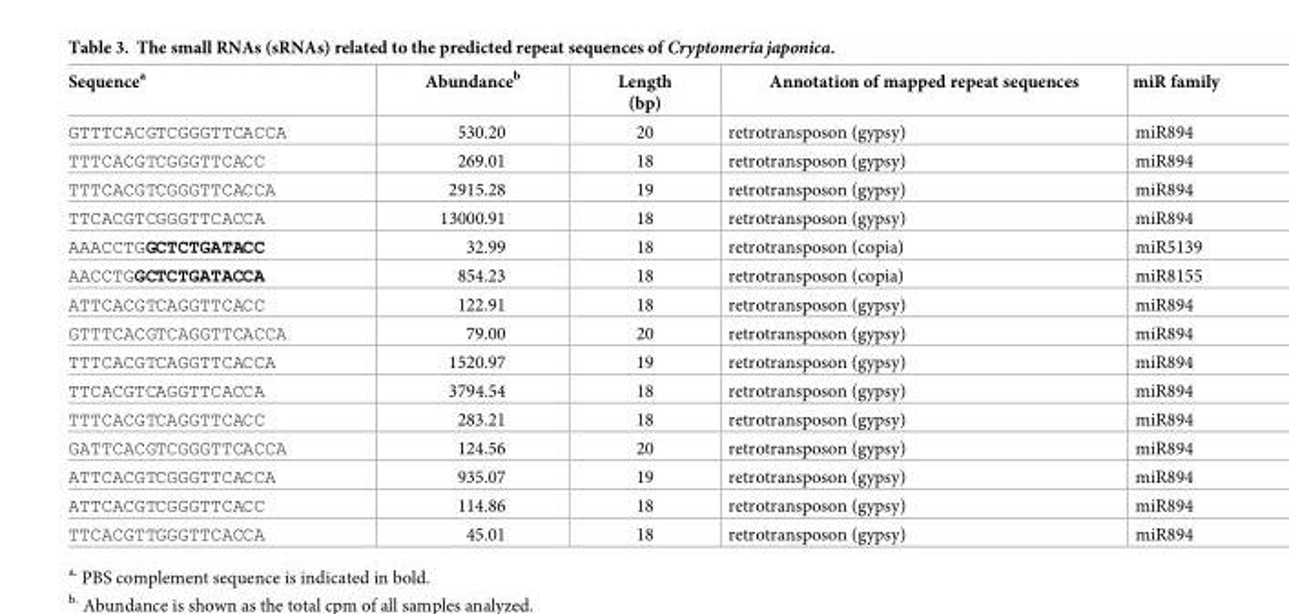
<table><thead><tr><td>Sequence<sup>a</sup></td><td>Abundance<sup>b</sup></td><td>Length (bp)</td><td>Annotation of mapped repeat sequences</td><td>miR family</td></tr></thead><tbody><tr><td>GTTTCACGTCGGGTTCACCA</td><td>530.20</td><td>20</td><td>retrotransposon (gypsy)</td><td>miR894</td></tr><tr><td>TTTCACGTCGGGTTCACC</td><td>269.01</td><td>18</td><td>retrotransposon (gypsy)</td><td>miR894</td></tr><tr><td>TTTCACGTCGGGTTCACCA</td><td>2915.28</td><td>19</td><td>retrotransposon (gypsy)</td><td>miR894</td></tr><tr><td>TTCACGTCGGGTTCACCA</td><td>13000.91</td><td>18</td><td>retrotransposon (gypsy)</td><td>miR894</td></tr><tr><td>AAACCTGGCTCTGATACC</td><td>32.99</td><td>18</td><td>retrotransposon (copia)</td><td>miR5139</td></tr><tr><td>AACCTGGCTCTGATACCA</td><td>854.23</td><td>18</td><td>retrotransposon (copia)</td><td>miR8155</td></tr><tr><td>ATTCACGTCAGGTTCACC</td><td>122.91</td><td>18</td><td>retrotransposon (gypsy)</td><td>miR894</td></tr><tr><td>GTTTCACGTCAGGTTCACCA</td><td>79.00</td><td>20</td><td>retrotransposon (gypsy)</td><td>miR894</td></tr><tr><td>TTTCACGTCAGGTTCACCA</td><td>1520.97</td><td>19</td><td>retrotransposon (gypsy)</td><td>miR894</td></tr><tr><td>TTCACGTCAGGTTCACCA</td><td>3794.54</td><td>18</td><td>retrotransposon (gypsy)</td><td>miR894</td></tr><tr><td>TTTCACGTCAGGTTCACC</td><td>283.21</td><td>18</td><td>retrotransposon (gypsy)</td><td>miR894</td></tr><tr><td>GATTCACGTCGGGTTCACCA</td><td>124.56</td><td>20</td><td>retrotransposon (gypsy)</td><td>miR894</td></tr><tr><td>ATTCACGTCGGGTTCACCA</td><td>935.07</td><td>19</td><td>retrotransposon (gypsy)</td><td>miR894</td></tr><tr><td>ATTCACGTCGGGTTCACC</td><td>114.86</td><td>18</td><td>retrotransposon (gypsy)</td><td>miR894</td></tr><tr><td>TTCACGTTGGGTTCACCA</td><td>45.01</td><td>18</td><td>retrotransposon (gypsy)</td><td>miR894</td></tr></tbody></table>